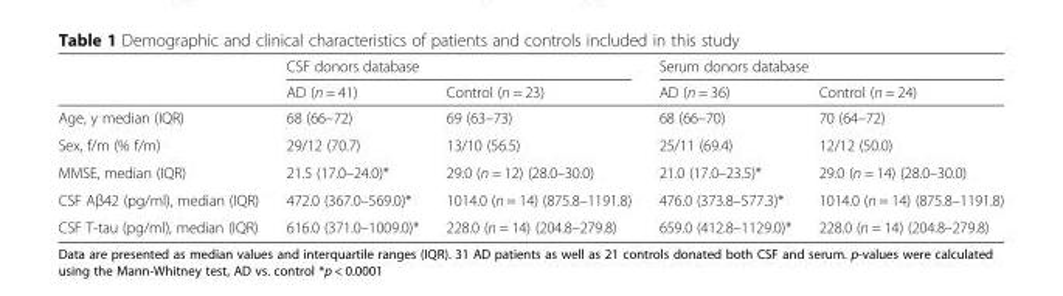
<table><thead><tr><td rowspan="2"></td><td colspan="2">CSF donors database</td><td colspan="2">Serum donors database</td></tr><tr><td>AD (n = 41)</td><td>Control (n = 23)</td><td>AD (n = 36)</td><td>Control (n = 24)</td></tr></thead><tbody><tr><td>Age, y median (IQR)</td><td>68 (66–72)</td><td>69 (63–73)</td><td>68 (66–70)</td><td>70 (64–72)</td></tr><tr><td>Sex, f/m (% f/m)</td><td>29/12 (70.7)</td><td>13/10 (56.5)</td><td>25/11 (69.4)</td><td>12/12 (50.0)</td></tr><tr><td>MMSE, median (IQR)</td><td>21.5 (17.0–24.0)*</td><td>29.0 (n = 12) (28.0–30.0)</td><td>21.0 (17.0–23.5)*</td><td>29.0 (n = 14) (28.0–30.0)</td></tr><tr><td>CSF Aβ42 (pg/ml), median (IQR)</td><td>472.0 (367.0–569.0)*</td><td>1014.0 (n = 14) (875.8–1191.8)</td><td>476.0 (373.8–577.3)*</td><td>1014.0 (n = 14) (875.8–1191.8)</td></tr><tr><td>CSF T-tau (pg/ml), median (IQR)</td><td>616.0 (371.0–1009.0)*</td><td>228.0 (n = 14) (204.8–279.8)</td><td>659.0 (412.8–1129.0)*</td><td>228.0 (n = 14) (204.8–279.8)</td></tr></tbody></table>